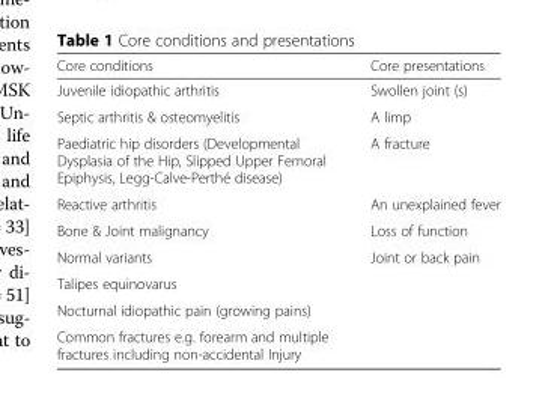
<table><thead><tr><td>Core conditions</td><td>Core presentations</td></tr></thead><tbody><tr><td>Juvenile idiopathic arthritis</td><td>Swollen joint (s)</td></tr><tr><td>Septic arthritis &amp; osteomyelitis</td><td>A limp</td></tr><tr><td>Paediatric hip disorders (Developmental Dysplasia of the Hip, Slipped Upper Femoral Epiphysis, Legg-Calve-Perthé disease)</td><td>A fracture</td></tr><tr><td>Reactive arthritis</td><td>An unexplained fever</td></tr><tr><td>Bone &amp; Joint malignancy</td><td>Loss of function</td></tr><tr><td>Normal variants</td><td>Joint or back pain</td></tr><tr><td>Talipes equinovarus</td><td rowspan="3"></td></tr><tr><td>Nocturnal idiopathic pain (growing pains)</td></tr><tr><td>Common fractures e.g. forearm and multiple fractures including non-accidental Injury</td></tr></tbody></table>